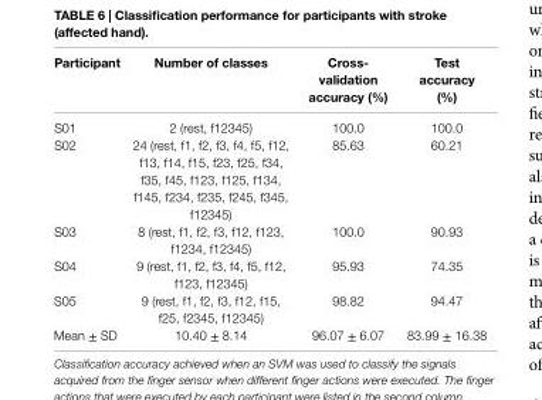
<table><thead><tr><td>Participant</td><td>number of classes</td><td>cross- validation accuracy (%)</td><td>Test accuracy (%)</td></tr></thead><tbody><tr><td>S01</td><td>2 (rest, f12345)</td><td>100.0</td><td>100.0</td></tr><tr><td>S02</td><td>24 (rest, f1, f2, f3, f4, f5, f12, f13, f14, f15, f23, f25, f34, f35, f45, f123, f125, f134, f145, f234, f235, f245, f345, f12345)</td><td>85.63</td><td>60.21</td></tr><tr><td>S03</td><td>8 (rest, f1, f2, f3, f12, f123, f1234, f12345)</td><td>100.0</td><td>90.93</td></tr><tr><td>S04</td><td>9 (rest, f1, f2, f3, f4, f5, f12, f123, f12345)</td><td>95.93</td><td>74.35</td></tr><tr><td>S05</td><td>9 (rest, f1, f2, f3, f12, f15, f25, f2345, f12345)</td><td>98.82</td><td>94.47</td></tr><tr><td>Mean ± SD</td><td>10.40 ± 8.14</td><td>96.07 ± 6.07</td><td>83.99 ± 16.38</td></tr></tbody></table>